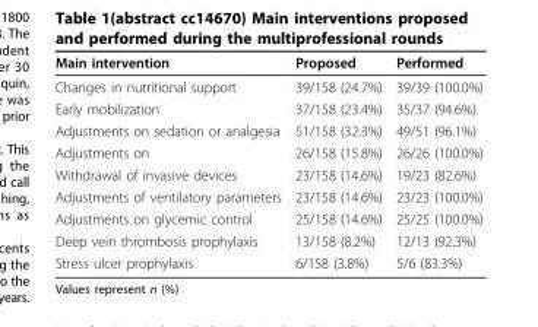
<table><thead><tr><td>Main intervention</td><td>Proposed</td><td>Performed</td></tr></thead><tbody><tr><td>Changes in nutritional support</td><td>39/158 (24.7%)</td><td>39/39 (100.0%)</td></tr><tr><td>Early mobilization</td><td>37/158 (23.4%)</td><td>35/37 (94.6%)</td></tr><tr><td>Adjustments on sedation or analgesia</td><td>51/158 (32.3%)</td><td>49/51 (96.1%)</td></tr><tr><td>Adjustments on</td><td>26/158 (15.8%)</td><td>26/26 (100.0%)</td></tr><tr><td>Withdrawal of invasive devices</td><td>23/158 (14.6%)</td><td>19/23 (82.6%)</td></tr><tr><td>Adjustments of ventilatory parameters</td><td>23/158 (14.6%)</td><td>23/23 (100.0%)</td></tr><tr><td>Adjustments on glycemic control</td><td>25/158 (14.6%)</td><td>25/25 (100.0%)</td></tr><tr><td>Deep vein thrombosis prophylaxis</td><td>13/158 (8.2%)</td><td>12/13 (92.3%)</td></tr><tr><td>Stress ulcer prophylaxis</td><td>6/158 (3.8%)</td><td>5/6 (83.3%)</td></tr></tbody></table>